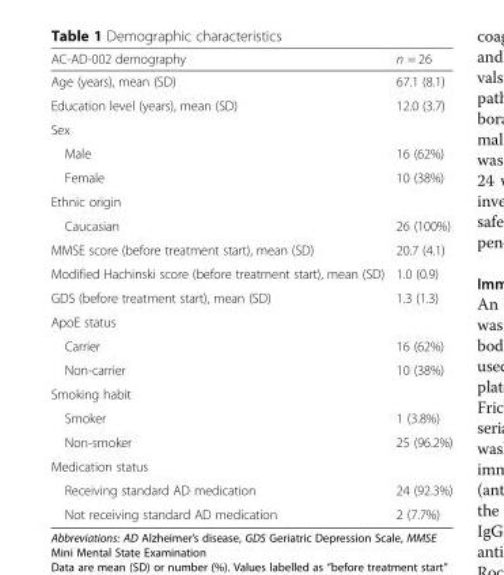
<table><thead><tr><td>AC-AD-002 demography</td><td>n = 26</td></tr></thead><tbody><tr><td>Age (years), mean (SD)</td><td>67.1 (8.1)</td></tr><tr><td>Education level (years), mean (SD)</td><td>12.0 (3.7)</td></tr><tr><td colspan="2">Sex</td></tr><tr><td>Male</td><td>16 (62%)</td></tr><tr><td>Female</td><td>10 (38%)</td></tr><tr><td colspan="2">Ethnic origin</td></tr><tr><td>Caucasian</td><td>26 (100%)</td></tr><tr><td>MMSE score (before treatment start), mean (SD)</td><td>20.7 (4.1)</td></tr><tr><td>Modified Hachinski score (before treatment start), mean (SD)</td><td>1.0 (0.9)</td></tr><tr><td>GDS (before treatment start), mean (SD)</td><td>1.3 (1.3)</td></tr><tr><td colspan="2">ApoE status</td></tr><tr><td>Carrier</td><td>16 (62%)</td></tr><tr><td>Non-carrier</td><td>10 (38%)</td></tr><tr><td colspan="2">Smoking habit</td></tr><tr><td>Smoker</td><td>1 (3.8%)</td></tr><tr><td>Non-smoker</td><td>25 (96.2%)</td></tr><tr><td colspan="2">Medication status</td></tr><tr><td>Receiving standard AD medication</td><td>24 (92.3%)</td></tr><tr><td>Not receiving standard AD medication</td><td>2 (7.7%)</td></tr></tbody></table>